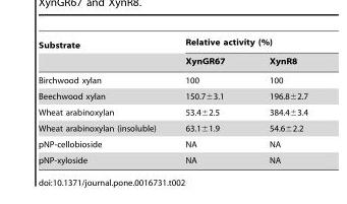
<table><thead><tr><td rowspan="2">Substrate</td><td colspan="2">Relative activity (%)</td></tr><tr><td>XynGR67</td><td>XynR8</td></tr></thead><tbody><tr><td>Birchwood xylan</td><td>100</td><td>100</td></tr><tr><td>Beechwood xylan</td><td>150.7±3.1</td><td>196.8±2.7</td></tr><tr><td>Wheat arabinoxylan</td><td>53.4±2.5</td><td>384.4±3.4</td></tr><tr><td>Wheat arabinoxylan (insoluble)</td><td>63.1±1.9</td><td>54.6±2.2</td></tr><tr><td>pNP-cellobioside</td><td>NA</td><td>NA</td></tr><tr><td>pNP-xyloside</td><td>NA</td><td>NA</td></tr></tbody></table>